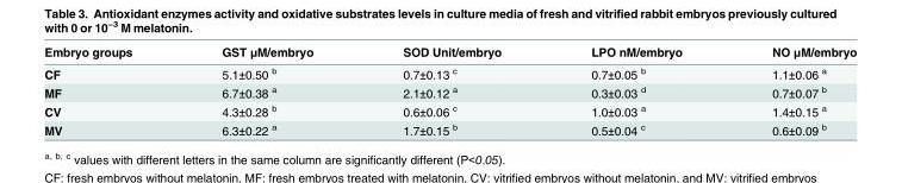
<table><thead><tr><td>Embryo groups</td><td>GST μM/embryo</td><td>SOD Unit/embryo</td><td>LPO nM/embryo</td><td>NO μM/embryo</td></tr></thead><tbody><tr><td>CF</td><td>5.1±0.50 <sup>b</sup></td><td>0.7±0.13 <sup>c</sup></td><td>0.7±0.05 <sup>b</sup></td><td>1.1±0.06 <sup>a</sup></td></tr><tr><td>MF</td><td>6.7±0.38 <sup>a</sup></td><td>2.1±0.12 <sup>a</sup></td><td>0.3±0.03 <sup>d</sup></td><td>0.7±0.07 <sup>b</sup></td></tr><tr><td>CV</td><td>4.3±0.28 <sup>b</sup></td><td>0.6±0.06 <sup>c</sup></td><td>1.0±0.03 <sup>a</sup></td><td>1.4±0.15 <sup>a</sup></td></tr><tr><td>MV</td><td>6.3±0.22 <sup>a</sup></td><td>1.7±0.15 <sup>b</sup></td><td>0.5±0.04 <sup>c</sup></td><td>0.6±0.09 <sup>b</sup></td></tr></tbody></table>